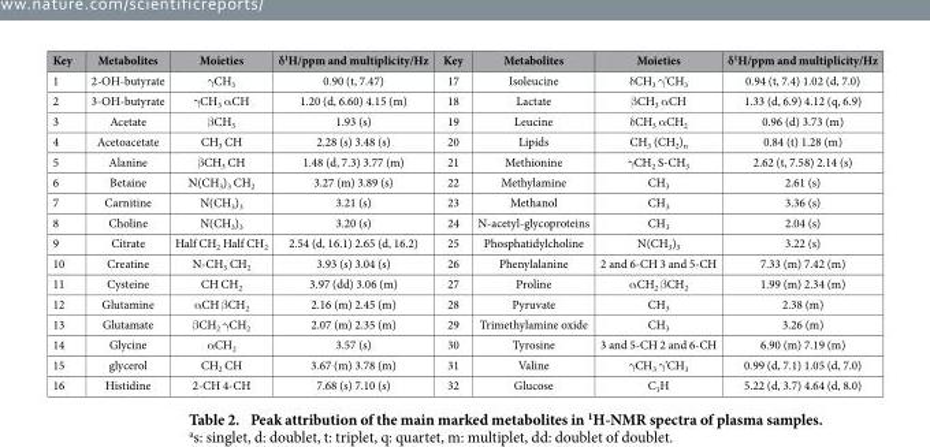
<table><thead><tr><td>Key</td><td>Metabolites</td><td>Moieties</td><td>δ<sup>1</sup>H/ppm and multiplicity/Hz</td><td>Key</td><td>Metabolites</td><td>Moieties</td><td>δ<sup>1</sup>H/ppm and multiplicity/Hz</td></tr></thead><tbody><tr><td>1</td><td>2-OH-butyrate</td><td>γ CH<sub>3</sub></td><td>0.90 (t, 7.47)</td><td>17</td><td>Isoleucine</td><td>δ CH<sub>3</sub> γ ’CH<sub>3</sub></td><td>0.94 (t, 7.4) 1.02 (d, 7.0)</td></tr><tr><td>2</td><td>3-OH-butyrate</td><td>γ CH<sub>3</sub> α CH</td><td>1.20 (d, 6.60) 4.15 (m)</td><td>18</td><td>Lactate</td><td>β CH<sub>3</sub> α CH</td><td>1.33 (d, 6.9) 4.12 (q, 6.9)</td></tr><tr><td>3</td><td>Acetate</td><td>β CH<sub>3</sub></td><td>1.93 (s)</td><td>19</td><td>Leucine</td><td>δ CH<sub>3</sub> α CH<sub>2</sub></td><td>0.96 (d) 3.73 (m)</td></tr><tr><td>4</td><td>Acetoacetate</td><td>CH<sub>3</sub> CH</td><td>2.28 (s) 3.48 (s)</td><td>20</td><td>Lipids</td><td>CH<sub>3</sub> (CH<sub>2</sub>)<sub>n</sub></td><td>0.84 (t) 1.28 (m)</td></tr><tr><td>5</td><td>Alanine</td><td>β CH<sub>3</sub> CH</td><td>1.48 (d, 7.3) 3.77 (m)</td><td>21</td><td>Methionine</td><td>γ CH<sub>2</sub> S-CH<sub>3</sub></td><td>2.62 (t, 7.58) 2.14 (s)</td></tr><tr><td>6</td><td>Betaine</td><td>N(CH<sub>3</sub>)<sub>3</sub> CH<sub>2</sub></td><td>3.27 (m) 3.89 (s)</td><td>22</td><td>Methylamine</td><td>CH<sub>3</sub></td><td>2.61 (s)</td></tr><tr><td>7</td><td>Carnitine</td><td>N(CH<sub>3</sub>)<sub>3</sub></td><td>3.21 (s)</td><td>23</td><td>Methanol</td><td>CH<sub>3</sub></td><td>3.36 (s)</td></tr><tr><td>8</td><td>Choline</td><td>N(CH<sub>3</sub>)<sub>3</sub></td><td>3.20 (s)</td><td>24</td><td>N-acetyl-glycoproteins</td><td>CH<sub>3</sub></td><td>2.04 (s)</td></tr><tr><td>9</td><td>Citrate</td><td>Half CH<sub>2</sub> Half CH<sub>2</sub></td><td>2.54 (d, 16.1) 2.65 (d, 16.2)</td><td>25</td><td>Phosphatidylcholine</td><td>N(CH<sub>3</sub>)<sub>3</sub></td><td>3.22 (s)</td></tr><tr><td>10</td><td>Creatine</td><td>N-CH<sub>3</sub> CH<sub>2</sub></td><td>3.93 (s) 3.04 (s)</td><td>26</td><td>Phenylalanine</td><td>2 and 6-CH 3 and 5-CH</td><td>7.33 (m) 7.42 (m)</td></tr><tr><td>11</td><td>Cysteine</td><td>CH CH<sub>2</sub></td><td>3.97 (dd) 3.06 (m)</td><td>27</td><td>Proline</td><td>α CH<sub>2</sub> β CH<sub>2</sub></td><td>1.99 (m) 2.34 (m)</td></tr><tr><td>12</td><td>Glutamine</td><td>α CH β CH<sub>2</sub></td><td>2.16 (m) 2.45 (m)</td><td>28</td><td>Pyruvate</td><td>CH<sub>3</sub></td><td>2.38 (m)</td></tr><tr><td>13</td><td>Glutamate</td><td>β CH<sub>2</sub> γ CH<sub>2</sub></td><td>2.07 (m) 2.35 (m)</td><td>29</td><td>Trimethylamine oxide</td><td>CH<sub>3</sub></td><td>3.26 (m)</td></tr><tr><td>14</td><td>Glycine</td><td>α CH<sub>2</sub></td><td>3.57 (s)</td><td>30</td><td>Tyrosine</td><td>3 and 5-CH 2 and 6-CH</td><td>6.90 (m) 7.19 (m)</td></tr><tr><td>15</td><td>glycerol</td><td>CH<sub>2</sub> CH</td><td>3.67 (m) 3.78 (m)</td><td>31</td><td>Valine</td><td>γ CH<sub>3</sub> γ ’CH<sub>3</sub></td><td>0.99 (d, 7.1) 1.05 (d, 7.0)</td></tr><tr><td>16</td><td>Histidine</td><td>2-CH 4-CH</td><td>7.68 (s) 7.10 (s)</td><td>32</td><td>Glucose</td><td>C<sub>1</sub>H</td><td>5.22 (d, 3.7) 4.64 (d, 8.0)</td></tr></tbody></table>